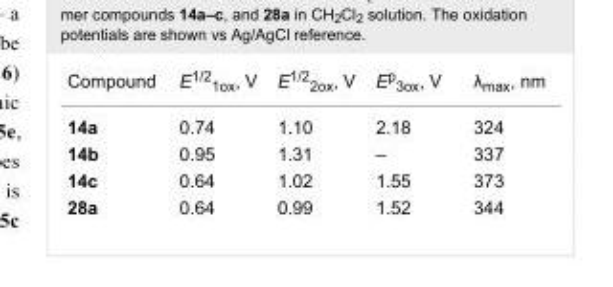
<table><tbody><tr><td>Compound</td><td>E<sup>1/2</sup><sub>1ox</sub>, V</td><td>E<sup>1/2</sup><sub>2ox</sub>, V</td><td>E<sup>p</sup><sub>3ox</sub>, V</td><td>λ<sub>max</sub>, nm</td></tr><tr><td>14a</td><td>0.74</td><td>1.10</td><td>2.18</td><td>324</td></tr><tr><td>14b</td><td>0.95</td><td>1.31</td><td>–</td><td>337</td></tr><tr><td>14c</td><td>0.64</td><td>1.02</td><td>1.55</td><td>373</td></tr><tr><td>28a</td><td>0.64</td><td>0.99</td><td>1.52</td><td>344</td></tr></tbody></table>